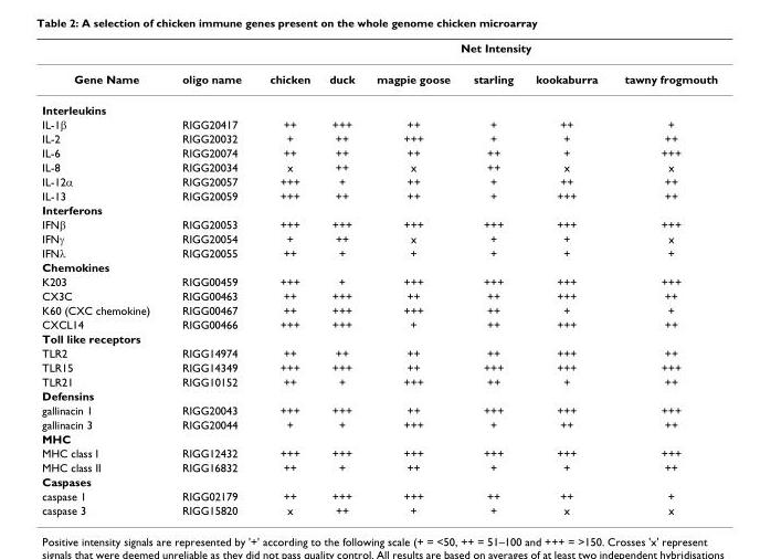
<table><thead><tr><td rowspan="2">Gene Name</td><td rowspan="2">oligo name</td><td colspan="6">Net Intensity</td></tr><tr><td>chicken</td><td>duck</td><td>magpie goose</td><td>starling</td><td>kookaburra</td><td>tawny frogmouth</td></tr></thead><tbody><tr><td colspan="8">Interleukins</td></tr><tr><td>IL-1β</td><td>RIGG20417</td><td>++</td><td>+++</td><td>++</td><td>+</td><td>++</td><td>+</td></tr><tr><td>IL-2</td><td>RIGG20032</td><td>+</td><td>++</td><td>+++</td><td>+</td><td>+</td><td>++</td></tr><tr><td>IL-6</td><td>RIGG20074</td><td>++</td><td>++</td><td>++</td><td>++</td><td>+</td><td>+++</td></tr><tr><td>IL-8</td><td>RIGG20034</td><td>x</td><td>++</td><td>x</td><td>++</td><td>x</td><td>x</td></tr><tr><td>IL-12α</td><td>RIGG20057</td><td>+++</td><td>+</td><td>++</td><td>+</td><td>++</td><td>++</td></tr><tr><td>IL-13</td><td>RIGG20059</td><td>+++</td><td>++</td><td>++</td><td>+</td><td>+++</td><td>++</td></tr><tr><td colspan="8">Interferons</td></tr><tr><td>IFNβ</td><td>RIGG20053</td><td>+++</td><td>+++</td><td>+++</td><td>+++</td><td>+++</td><td>+++</td></tr><tr><td>IFNγ</td><td>RIGG20054</td><td>+</td><td>++</td><td>x</td><td>+</td><td>+</td><td>x</td></tr><tr><td>IFNλ</td><td>RIGG20055</td><td>++</td><td>+</td><td>+</td><td>+</td><td>+</td><td>+</td></tr><tr><td colspan="8">Chemokines</td></tr><tr><td>K203</td><td>RIGG00459</td><td>+++</td><td>+</td><td>+++</td><td>+++</td><td>+++</td><td>+++</td></tr><tr><td>CX3C</td><td>RIGG00463</td><td>++</td><td>+++</td><td>++</td><td>++</td><td>+++</td><td>++</td></tr><tr><td>K60 (CXC chemokine)</td><td>RIGG00467</td><td>++</td><td>+++</td><td>+++</td><td>++</td><td>+</td><td>+</td></tr><tr><td>CXCL14</td><td>RIGG00466</td><td>+++</td><td>+++</td><td>+</td><td>++</td><td>+++</td><td>++</td></tr><tr><td colspan="8">Toll like receptors</td></tr><tr><td>TLR2</td><td>RIGG14974</td><td>++</td><td>++</td><td>++</td><td>++</td><td>+++</td><td>++</td></tr><tr><td>TLR15</td><td>RIGG14349</td><td>+++</td><td>+++</td><td>++</td><td>+++</td><td>+++</td><td>+++</td></tr><tr><td>TLR21</td><td>RIGG10152</td><td>++</td><td>+</td><td>+++</td><td>++</td><td>+</td><td>++</td></tr><tr><td colspan="8">Defensins</td></tr><tr><td>gallinacin 1</td><td>RIGG20043</td><td>+++</td><td>+++</td><td>++</td><td>+++</td><td>+++</td><td>+++</td></tr><tr><td>gallinacin 3</td><td>RIGG20044</td><td>+</td><td>+</td><td>+++</td><td>+</td><td>++</td><td>++</td></tr><tr><td colspan="8">MHC</td></tr><tr><td>MHC class I</td><td>RIGG12432</td><td>+++</td><td>+++</td><td>+++</td><td>+++</td><td>+++</td><td>+++</td></tr><tr><td>MHC class II</td><td>RIGG16832</td><td>++</td><td>+</td><td>++</td><td>+</td><td>+</td><td>++</td></tr><tr><td colspan="8">Caspases</td></tr><tr><td>caspase 1</td><td>RIGG02179</td><td>++</td><td>+++</td><td>+++</td><td>++</td><td>++</td><td>+</td></tr><tr><td>caspase 3</td><td>RIGG15820</td><td>x</td><td>++</td><td>+</td><td>+</td><td>x</td><td>x</td></tr></tbody></table>